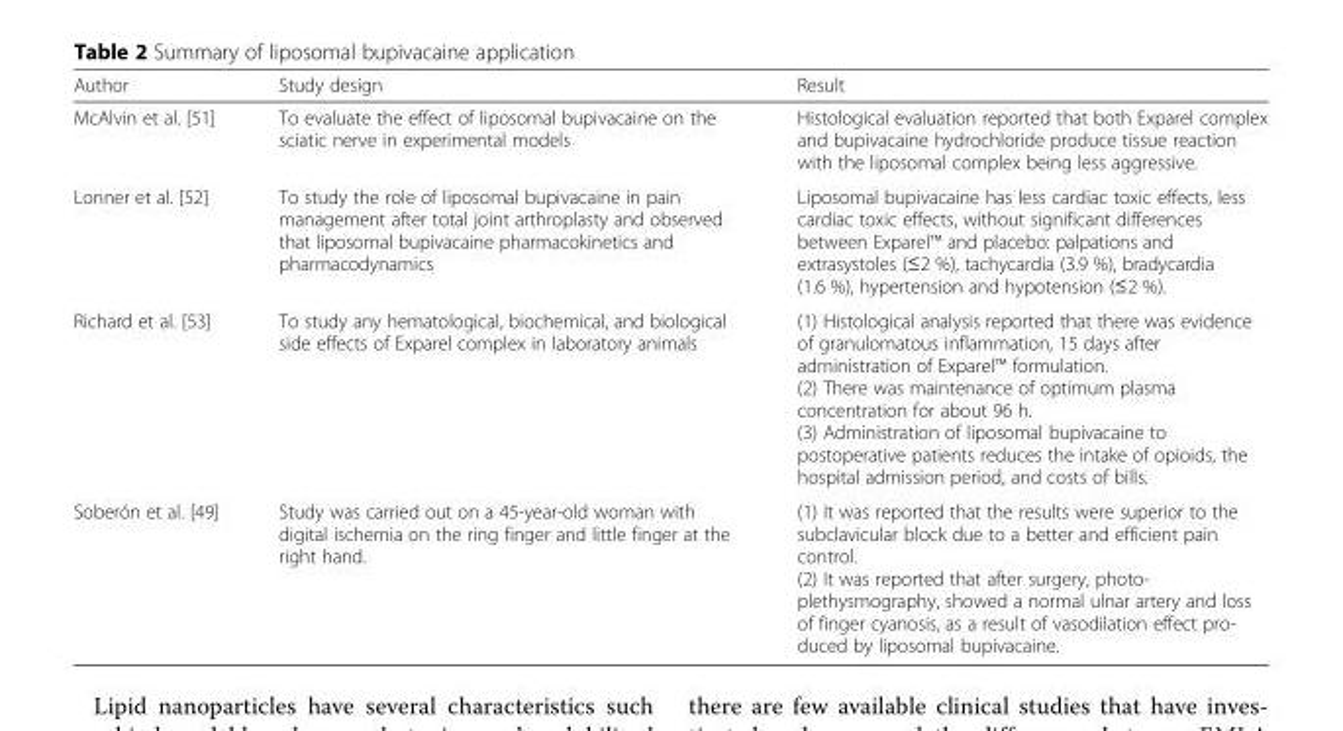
<table><thead><tr><td>Author</td><td>Study design</td><td>Result</td></tr></thead><tbody><tr><td>McAlvin et al. [51]</td><td>To evaluate the effect of liposomal bupivacaine on the sciatic nerve in experimental models</td><td>Histological evaluation reported that both Exparel complex and bupivacaine hydrochloride produce tissue reaction with the liposomal complex being less aggressive.</td></tr><tr><td>Lonner et al. [52]</td><td>To study the role of liposomal bupivacaine in pain management after total joint arthroplasty and observed that liposomal bupivacaine pharmacokinetics and pharmacodynamics</td><td>Liposomal bupivacaine has less cardiac toxic effects, less cardiac toxic effects, without significant differences between Exparel™ and placebo: palpations and extrasystoles (≤2 %), tachycardia (3.9 %), bradycardia (1.6 %), hypertension and hypotension (≤2 %).</td></tr><tr><td>Richard et al. [53]</td><td>To study any hematological, biochemical, and biological side effects of Exparel complex in laboratory animals</td><td>(1) Histological analysis reported that there was evidence of granulomatous inflammation, 15 days after administration of Exparel™ formulation. (2) There was maintenance of optimum plasma concentration for about 96 h. (3) Administration of liposomal bupivacaine to postoperative patients reduces the intake of opioids, the hospital admission period, and costs of bills.</td></tr><tr><td>Soberón et al. [49]</td><td>Study was carried out on a 45-year-old woman with digital ischemia on the ring finger and little finger at the right hand.</td><td>(1) It was reported that the results were superior to the subclavicular block due to a better and efficient pain control. (2) It was reported that after surgery, photo- plethysmography, showed a normal ulnar artery and loss of finger cyanosis, as a result of vasodilation effect pro- duced by liposomal bupivacaine.</td></tr></tbody></table>